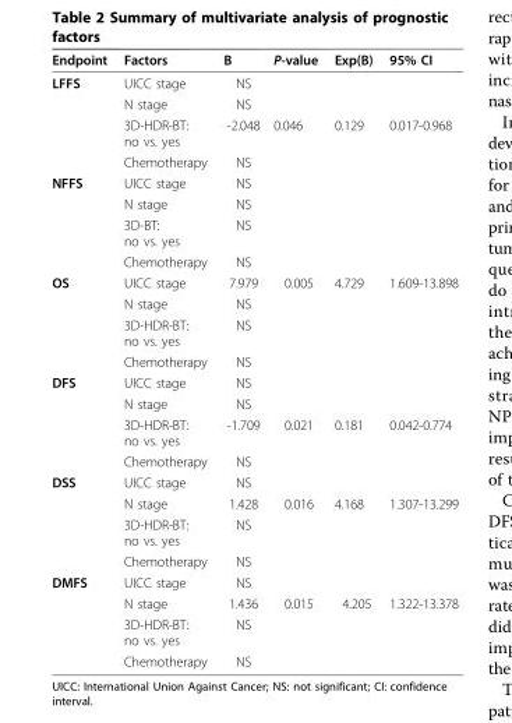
<table><thead><tr><td>Endpoint</td><td>Factors</td><td>B</td><td>P-value</td><td>Exp(B)</td><td>95% CI</td></tr></thead><tbody><tr><td rowspan="4">LFFS</td><td>UICC stage</td><td>NS</td><td></td><td></td><td></td></tr><tr><td>N stage</td><td>NS</td><td></td><td></td><td></td></tr><tr><td>3D-HDR-BT: no vs. yes</td><td>-2.048</td><td>0.046</td><td>0.129</td><td>0.017-0.968</td></tr><tr><td>Chemotherapy</td><td>NS</td><td></td><td></td><td></td></tr><tr><td rowspan="4">NFFS</td><td>UICC stage</td><td>NS</td><td></td><td></td><td></td></tr><tr><td>N stage</td><td>NS</td><td></td><td></td><td></td></tr><tr><td>3D-BT: no vs. yes</td><td>NS</td><td></td><td></td><td></td></tr><tr><td>Chemotherapy</td><td>NS</td><td></td><td></td><td></td></tr><tr><td rowspan="4">OS</td><td>UICC stage</td><td>7.979</td><td>0.005</td><td>4.729</td><td>1.609-13.898</td></tr><tr><td>N stage</td><td>NS</td><td></td><td></td><td></td></tr><tr><td>3D-HDR-BT: no vs. yes</td><td>NS</td><td></td><td></td><td></td></tr><tr><td>Chemotherapy</td><td>NS</td><td></td><td></td><td></td></tr><tr><td rowspan="4">DFS</td><td>UICC stage</td><td>NS</td><td></td><td></td><td></td></tr><tr><td>N stage</td><td>NS</td><td></td><td></td><td></td></tr><tr><td>3D-HDR-BT: no vs. yes</td><td>-1.709</td><td>0.021</td><td>0.181</td><td>0.042-0.774</td></tr><tr><td>Chemotherapy</td><td>NS</td><td></td><td></td><td></td></tr><tr><td rowspan="4">DSS</td><td>UICC stage</td><td>NS</td><td></td><td></td><td></td></tr><tr><td>N stage</td><td>1.428</td><td>0.016</td><td>4.168</td><td>1.307-13.299</td></tr><tr><td>3D-HDR-BT: no vs. yes</td><td>NS</td><td></td><td></td><td></td></tr><tr><td>Chemotherapy</td><td>NS</td><td></td><td></td><td></td></tr><tr><td rowspan="4">DMFS</td><td>UICC stage</td><td>NS</td><td></td><td></td><td></td></tr><tr><td>N stage</td><td>1.436</td><td>0.015</td><td>4.205</td><td>1.322-13.378</td></tr><tr><td>3D-HDR-BT: no vs. yes</td><td>NS</td><td></td><td></td><td></td></tr><tr><td>Chemotherapy</td><td>NS</td><td></td><td></td><td></td></tr></tbody></table>